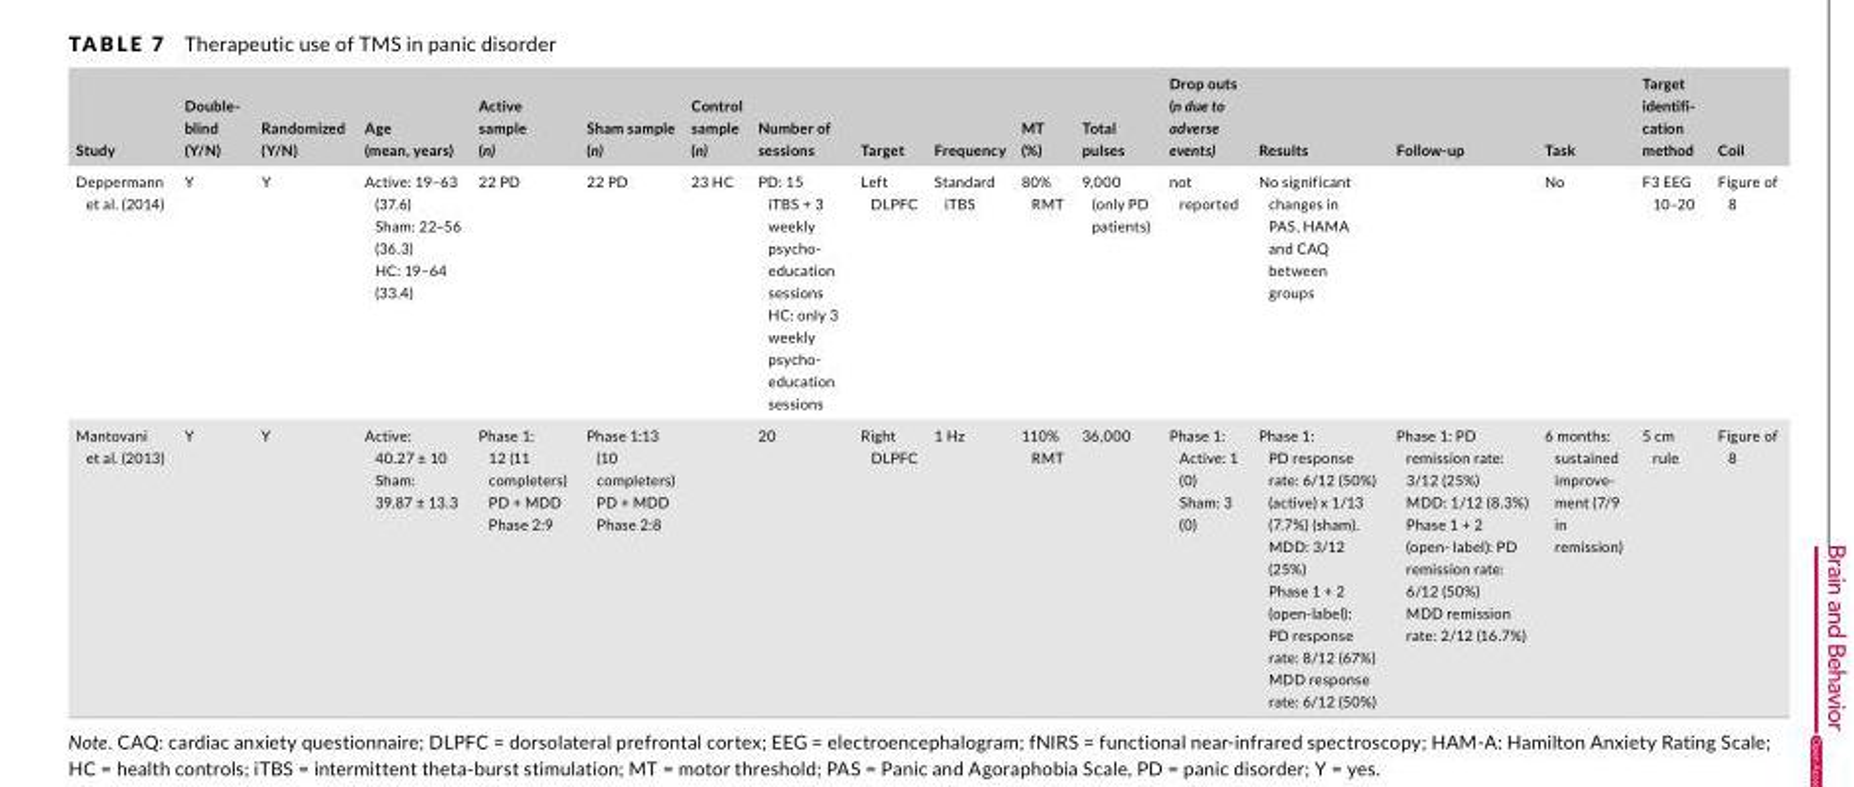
<table><thead><tr><td>Study</td><td>Double‐ blind (Y/N)</td><td>Randomized (Y/N)</td><td>Age (mean, years)</td><td>Active sample (n)</td><td>Sham sample (n)</td><td>Control sample (n)</td><td>Number of sessions</td><td>Target</td><td>Frequency</td><td>MT (%)</td><td>Total pulses</td><td>Drop outs (n due to adverse events)</td><td>Results</td><td>Follow‐up</td><td>Task</td><td>Target identifi‐ cation method</td><td>Coil</td></tr></thead><tbody><tr><td>Deppermann et al. (2014)</td><td>Y</td><td>Y</td><td>Active: 19–63 (37.6) Sham: 22–56 (36.3) HC: 19–64 (33.4)</td><td>22 PD</td><td>22 PD</td><td>23 HC</td><td>PD: 15 iTBS + 3 weekly psycho‐ education sessions HC: only 3 weekly psycho‐ education sessions</td><td>Left DLPFC</td><td>Standard iTBS</td><td>80% RMT</td><td>9,000 (only PD patients)</td><td>not reported</td><td>No significant changes in PAS, HAMA and CAQ between groups</td><td></td><td>No</td><td>F3 EEG 10–20</td><td>Figure of 8</td></tr><tr><td>Mantovani et al. (2013)</td><td>Y</td><td>Y</td><td>Active: 40.27 ± 10 Sham: 39.87 ± 13.3</td><td>Phase 1: 12 (11 completers) PD + MDD Phase 2:9</td><td>Phase 1:13 (10 completers) PD + MDD Phase 2:8</td><td></td><td>20</td><td>Right DLPFC</td><td>1 Hz</td><td>110% RMT</td><td>36,000</td><td>Phase 1: Active: 1 (0) Sham: 3 (0)</td><td>Phase 1: PD response rate: 6/12 (50%) (active) x 1/13 (7.7%) (sham). MDD: 3/12 (25%) Phase 1 + 2 (open‐label): PD response rate: 8/12 (67%) MDD response rate: 6/12 (50%)</td><td>Phase 1: PD remission rate: 3/12 (25%) MDD: 1/12 (8.3%) Phase 1 + 2 (open‐ label): PD remission rate: 6/12 (50%) MDD remission rate: 2/12 (16.7%)</td><td>6 months: sustained improve‐ ment (7/9 in remission)</td><td>5 cm rule</td><td>Figure of 8</td></tr></tbody></table>